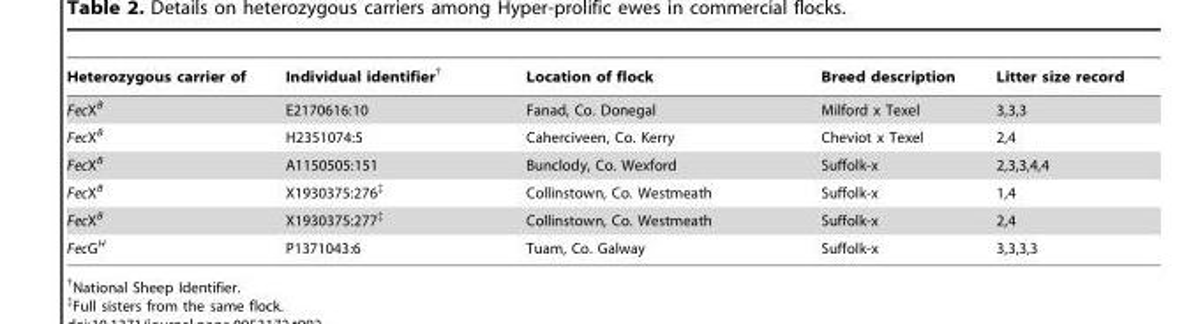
<table><thead><tr><td>Heterozygous carrier of</td><td>Individual identifier†</td><td>Location of flock</td><td>Breed description</td><td>Litter size record</td></tr></thead><tbody><tr><td>FecX<sup>B</sup></td><td>E2170616:10</td><td>Fanad, Co. Donegal</td><td>Milford x Texel</td><td>3,3,3</td></tr><tr><td>FecX<sup>B</sup></td><td>H2351074:5</td><td>Caherciveen, Co. Kerry</td><td>Cheviot x Texel</td><td>2,4</td></tr><tr><td>FecX<sup>B</sup></td><td>A1150505:151</td><td>Bunclody, Co. Wexford</td><td>Suffolk-x</td><td>2,3,3,4,4</td></tr><tr><td>FecX<sup>B</sup></td><td>X1930375:276‡</td><td>Collinstown, Co. Westmeath</td><td>Suffolk-x</td><td>1,4</td></tr><tr><td>FecX<sup>B</sup></td><td>X1930375:277‡</td><td>Collinstown, Co. Westmeath</td><td>Suffolk-x</td><td>2,4</td></tr><tr><td>FecG<sup>H</sup></td><td>P1371043:6</td><td>Tuam, Co. Galway</td><td>Suffolk-x</td><td>3,3,3,3</td></tr></tbody></table>